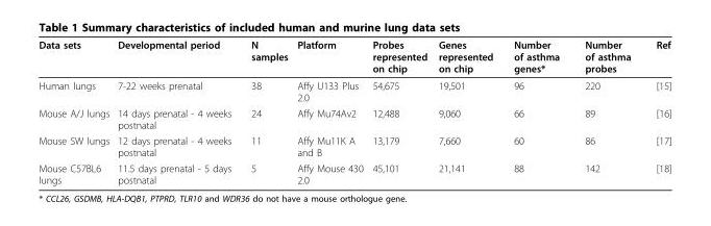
<table><thead><tr><td>Data sets</td><td>Developmental period</td><td>N samples</td><td>Platform</td><td>Probes represented on chip</td><td>Genes represented on chip</td><td>Number of asthma genes*</td><td>Number of asthma probes</td><td>Ref</td></tr></thead><tbody><tr><td>Human lungs</td><td>7-22 weeks prenatal</td><td>38</td><td>Affy U133 Plus 2.0</td><td>54,675</td><td>19,501</td><td>96</td><td>220</td><td>[15]</td></tr><tr><td>Mouse A/J lungs</td><td>14 days prenatal - 4 weeks postnatal</td><td>24</td><td>Affy Mu74Av2</td><td>12,488</td><td>9,060</td><td>66</td><td>89</td><td>[16]</td></tr><tr><td>Mouse SW lungs</td><td>12 days prenatal - 4 weeks postnatal</td><td>11</td><td>Affy Mu11K A and B</td><td>13,179</td><td>7,660</td><td>60</td><td>86</td><td>[17]</td></tr><tr><td>Mouse C57BL6 lungs</td><td>11.5 days prenatal - 5 days postnatal</td><td>5</td><td>Affy Mouse 430 2.0</td><td>45,101</td><td>21,141</td><td>88</td><td>142</td><td>[18]</td></tr></tbody></table>